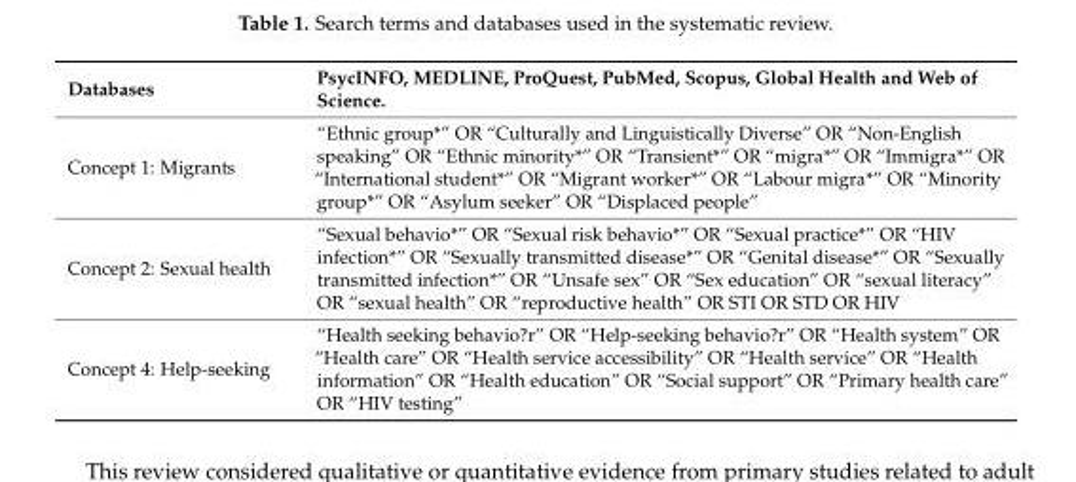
<table><thead><tr><td>Databases</td><td>PsycINFO, MEDLINE, ProQuest, PubMed, Scopus, Global Health and Web of Science.</td></tr></thead><tbody><tr><td>Concept 1: Migrants</td><td>“Ethnic group*” OR “Culturally and Linguistically Diverse” OR “Non-English speaking” OR “Ethnic minority*” OR “Transient*” OR “migra*” OR “Immigra*” OR “International student*” OR “Migrant worker*” OR “Labour migra*” OR “Minority group*” OR “Asylum seeker” OR “Displaced people”</td></tr><tr><td>Concept 2: Sexual health</td><td>“Sexual behavio*” OR “Sexual risk behavio*” OR “Sexual practice*” OR “HIV infection*” OR “Sexually transmitted disease*” OR “Genital disease*” OR “Sexually transmitted infection*” OR “Unsafe sex” OR “Sex education” OR “sexual literacy” OR “sexual health” OR “reproductive health” OR STI OR STD OR HIV</td></tr><tr><td>Concept 4: Help-seeking</td><td>“Health seeking behavio?r” OR “Help-seeking behavio?r” OR “Health system” OR “Health care” OR “Health service accessibility” OR “Health service” OR “Health information” OR “Health education” OR “Social support” OR “Primary health care” OR “HIV testing”</td></tr></tbody></table>